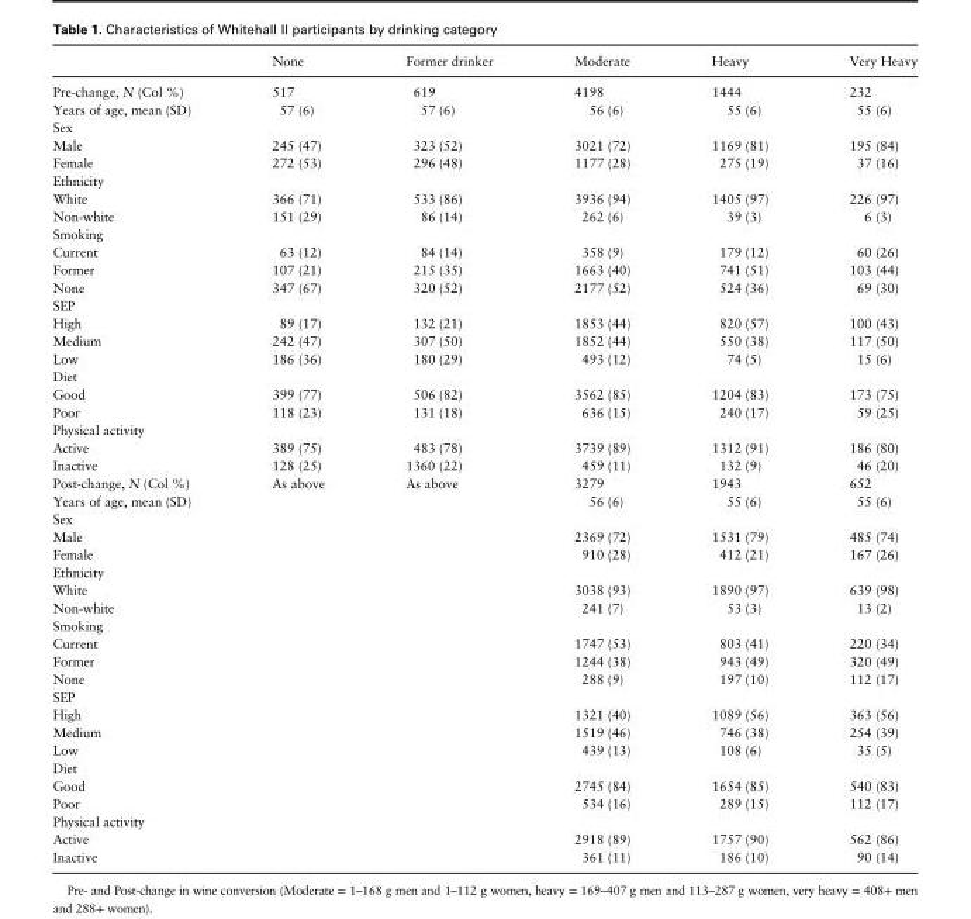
<table><thead><tr><td></td><td>None</td><td>Former drinker</td><td>Moderate</td><td>Heavy</td><td>Very Heavy</td></tr></thead><tbody><tr><td>Pre-change, N (Col %)</td><td>517</td><td>619</td><td>4198</td><td>1444</td><td>232</td></tr><tr><td>Years of age, mean (SD)</td><td>57 (6)</td><td>57 (6)</td><td>56 (6)</td><td>55 (6)</td><td>55 (6)</td></tr><tr><td colspan="6">Sex</td></tr><tr><td>Male</td><td>245 (47)</td><td>323 (52)</td><td>3021 (72)</td><td>1169 (81)</td><td>195 (84)</td></tr><tr><td>Female</td><td>272 (53)</td><td>296 (48)</td><td>1177 (28)</td><td>275 (19)</td><td>37 (16)</td></tr><tr><td colspan="6">Ethnicity</td></tr><tr><td>White</td><td>366 (71)</td><td>533 (86)</td><td>3936 (94)</td><td>1405 (97)</td><td>226 (97)</td></tr><tr><td>Non-white</td><td>151 (29)</td><td>86 (14)</td><td>262 (6)</td><td>39 (3)</td><td>6 (3)</td></tr><tr><td colspan="6">Smoking</td></tr><tr><td>Current</td><td>63 (12)</td><td>84 (14)</td><td>358 (9)</td><td>179 (12)</td><td>60 (26)</td></tr><tr><td>Former</td><td>107 (21)</td><td>215 (35)</td><td>1663 (40)</td><td>741 (51)</td><td>103 (44)</td></tr><tr><td>None</td><td>347 (67)</td><td>320 (52)</td><td>2177 (52)</td><td>524 (36)</td><td>69 (30)</td></tr><tr><td colspan="6">SEP</td></tr><tr><td>High</td><td>89 (17)</td><td>132 (21)</td><td>1853 (44)</td><td>820 (57)</td><td>100 (43)</td></tr><tr><td>Medium</td><td>242 (47)</td><td>307 (50)</td><td>1852 (44)</td><td>550 (38)</td><td>117 (50)</td></tr><tr><td>Low</td><td>186 (36)</td><td>180 (29)</td><td>493 (12)</td><td>74 (5)</td><td>15 (6)</td></tr><tr><td colspan="6">Diet</td></tr><tr><td>Good</td><td>399 (77)</td><td>506 (82)</td><td>3562 (85)</td><td>1204 (83)</td><td>173 (75)</td></tr><tr><td>Poor</td><td>118 (23)</td><td>131 (18)</td><td>636 (15)</td><td>240 (17)</td><td>59 (25)</td></tr><tr><td colspan="6">Physical activity</td></tr><tr><td>Active</td><td>389 (75)</td><td>483 (78)</td><td>3739 (89)</td><td>1312 (91)</td><td>186 (80)</td></tr><tr><td>Inactive</td><td>128 (25)</td><td>1360 (22)</td><td>459 (11)</td><td>132 (9)</td><td>46 (20)</td></tr><tr><td>Post-change, N (Col %)</td><td>As above</td><td>As above</td><td>3279</td><td>1943</td><td>652</td></tr><tr><td>Years of age, mean (SD)</td><td></td><td></td><td>56 (6)</td><td>55 (6)</td><td>55 (6)</td></tr><tr><td colspan="6">Sex</td></tr><tr><td>Male</td><td></td><td></td><td>2369 (72)</td><td>1531 (79)</td><td>485 (74)</td></tr><tr><td>Female</td><td></td><td></td><td>910 (28)</td><td>412 (21)</td><td>167 (26)</td></tr><tr><td colspan="6">Ethnicity</td></tr><tr><td>White</td><td></td><td></td><td>3038 (93)</td><td>1890 (97)</td><td>639 (98)</td></tr><tr><td>Non-white</td><td></td><td></td><td>241 (7)</td><td>53 (3)</td><td>13 (2)</td></tr><tr><td colspan="6">Smoking</td></tr><tr><td>Current</td><td></td><td></td><td>1747 (53)</td><td>803 (41)</td><td>220 (34)</td></tr><tr><td>Former</td><td></td><td></td><td>1244 (38)</td><td>943 (49)</td><td>320 (49)</td></tr><tr><td>None</td><td></td><td></td><td>288 (9)</td><td>197 (10)</td><td>112 (17)</td></tr><tr><td colspan="6">SEP</td></tr><tr><td>High</td><td></td><td></td><td>1321 (40)</td><td>1089 (56)</td><td>363 (56)</td></tr><tr><td>Medium</td><td></td><td></td><td>1519 (46)</td><td>746 (38)</td><td>254 (39)</td></tr><tr><td>Low</td><td></td><td></td><td>439 (13)</td><td>108 (6)</td><td>35 (5)</td></tr><tr><td colspan="6">Diet</td></tr><tr><td>Good</td><td></td><td></td><td>2745 (84)</td><td>1654 (85)</td><td>540 (83)</td></tr><tr><td>Poor</td><td></td><td></td><td>534 (16)</td><td>289 (15)</td><td>112 (17)</td></tr><tr><td colspan="6">Physical activity</td></tr><tr><td>Active</td><td></td><td></td><td>2918 (89)</td><td>1757 (90)</td><td>562 (86)</td></tr><tr><td>Inactive</td><td></td><td></td><td>361 (11)</td><td>186 (10)</td><td>90 (14)</td></tr></tbody></table>